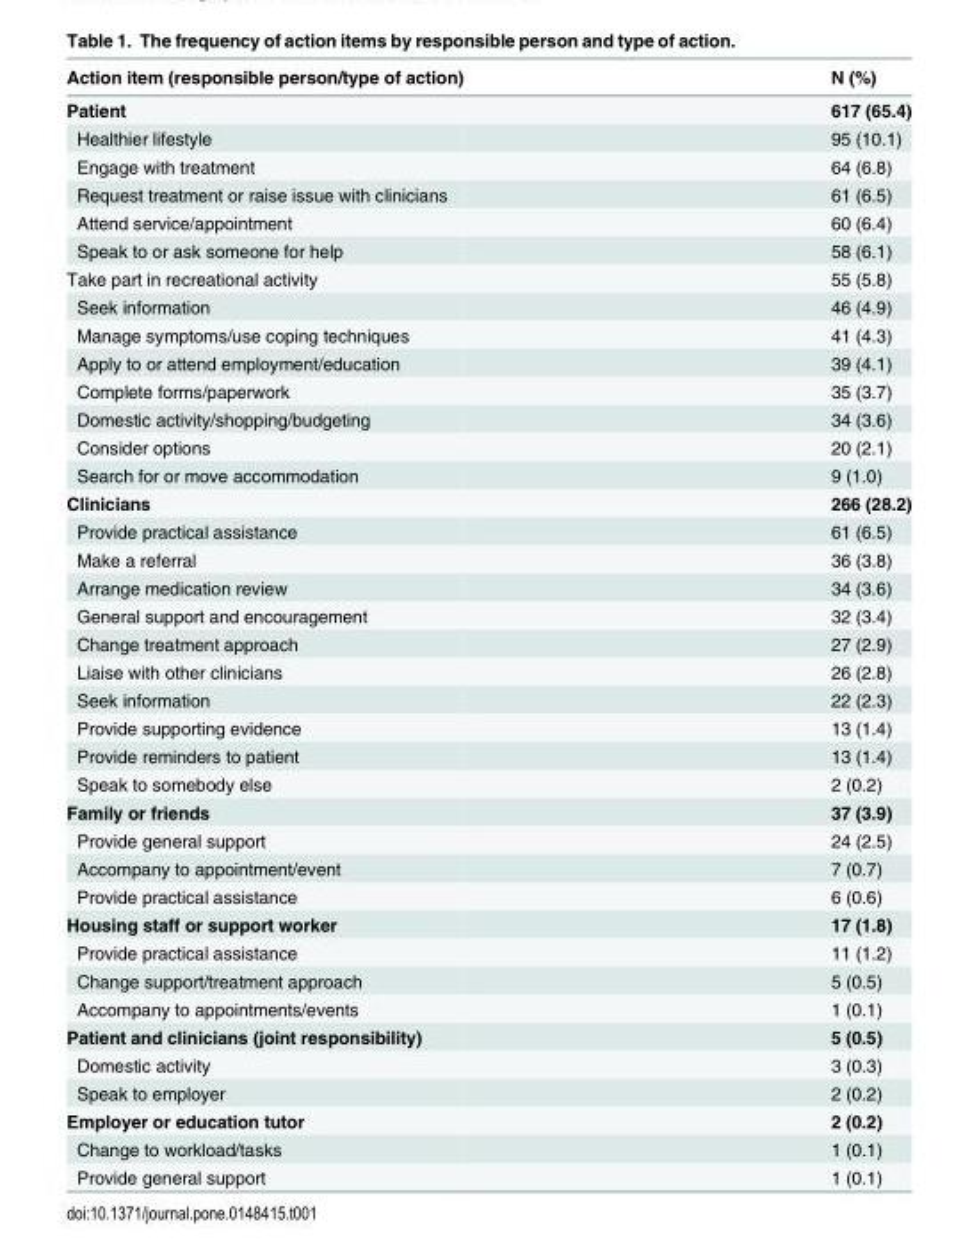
<table><thead><tr><td>Action item (responsible person/type of action)</td><td>N (%)</td></tr></thead><tbody><tr><td>Patient</td><td>617 (65.4)</td></tr><tr><td>Healthier lifestyle</td><td>95 (10.1)</td></tr><tr><td>Engage with treatment</td><td>64 (6.8)</td></tr><tr><td>Request treatment or raise issue with clinicians</td><td>61 (6.5)</td></tr><tr><td>Attend service/appointment</td><td>60 (6.4)</td></tr><tr><td>Speak to or ask someone for help</td><td>58 (6.1)</td></tr><tr><td>Take part in recreational activity</td><td>55 (5.8)</td></tr><tr><td>Seek information</td><td>46 (4.9)</td></tr><tr><td>Manage symptoms/use coping techniques</td><td>41 (4.3)</td></tr><tr><td>Apply to or attend employment/education</td><td>39 (4.1)</td></tr><tr><td>Complete forms/paperwork</td><td>35 (3.7)</td></tr><tr><td>Domestic activity/shopping/budgeting</td><td>34 (3.6)</td></tr><tr><td>Consider options</td><td>20 (2.1)</td></tr><tr><td>Search for or move accommodation</td><td>9 (1.0)</td></tr><tr><td>Clinicians</td><td>266 (28.2)</td></tr><tr><td>Provide practical assistance</td><td>61 (6.5)</td></tr><tr><td>Make a referral</td><td>36 (3.8)</td></tr><tr><td>Arrange medication review</td><td>34 (3.6)</td></tr><tr><td>General support and encouragement</td><td>32 (3.4)</td></tr><tr><td>Change treatment approach</td><td>27 (2.9)</td></tr><tr><td>Liaise with other clinicians</td><td>26 (2.8)</td></tr><tr><td>Seek information</td><td>22 (2.3)</td></tr><tr><td>Provide supporting evidence</td><td>13 (1.4)</td></tr><tr><td>Provide reminders to patient</td><td>13 (1.4)</td></tr><tr><td>Speak to somebody else</td><td>2 (0.2)</td></tr><tr><td>Family or friends</td><td>37 (3.9)</td></tr><tr><td>Provide general support</td><td>24 (2.5)</td></tr><tr><td>Accompany to appointment/event</td><td>7 (0.7)</td></tr><tr><td>Provide practical assistance</td><td>6 (0.6)</td></tr><tr><td>Housing staff or support worker</td><td>17 (1.8)</td></tr><tr><td>Provide practical assistance</td><td>11 (1.2)</td></tr><tr><td>Change support/treatment approach</td><td>5 (0.5)</td></tr><tr><td>Accompany to appointments/events</td><td>1 (0.1)</td></tr><tr><td>Patient and clinicians (joint responsibility)</td><td>5 (0.5)</td></tr><tr><td>Domestic activity</td><td>3 (0.3)</td></tr><tr><td>Speak to employer</td><td>2 (0.2)</td></tr><tr><td>Employer or education tutor</td><td>2 (0.2)</td></tr><tr><td>Change to workload/tasks</td><td>1 (0.1)</td></tr><tr><td>Provide general support</td><td>1 (0.1)</td></tr></tbody></table>